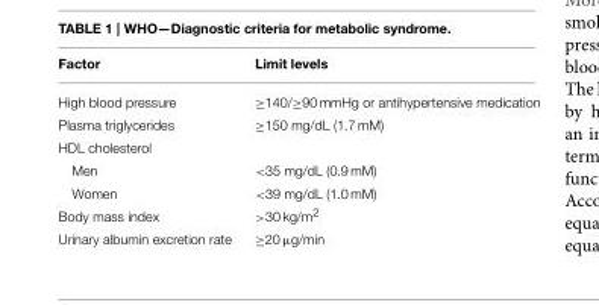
<table><thead><tr><td>Factor</td><td>Limit levels</td></tr></thead><tbody><tr><td>High blood pressure</td><td>≥140/≥90 mmHg or antihypertensive medication</td></tr><tr><td>Plasma triglycerides</td><td>≥150 mg/dL (1.7 mM)</td></tr><tr><td colspan="2">HDL cholesterol</td></tr><tr><td>Men</td><td>&lt;35 mg/dL (0.9 mM)</td></tr><tr><td>Women</td><td>&lt;39 mg/dL (1.0 mM)</td></tr><tr><td>Body mass index</td><td>&gt;30 kg/m<sup>2</sup></td></tr><tr><td>Urinary albumin excretion rate</td><td>≥20 µg/min</td></tr></tbody></table>